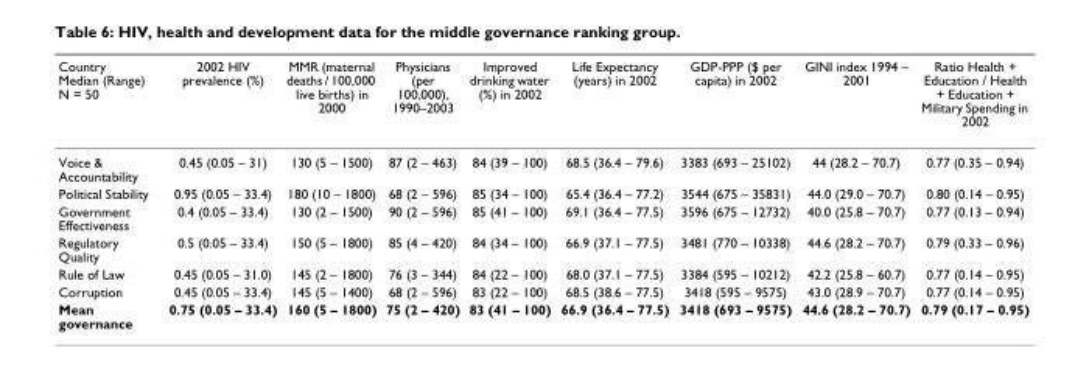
<table><thead><tr><td>Country Median (Range) N = 50</td><td>2002 HIV prevalence (%)</td><td>MMR (maternal deaths / 100,000 live births) in 2000</td><td>Physicians (per 100,000), 1990–2003</td><td>Improved drinking water (%) in 2002</td><td>Life Expectancy (years) in 2002</td><td>GDP-PPP ($ per capita) in 2002</td><td>GINI index 1994 – 2001</td><td>Ratio Health + Education / Health + Education + Military Spending in 2002</td></tr></thead><tbody><tr><td>Voice &amp; Accountability</td><td>0.45 (0.05 – 31)</td><td>130 (5 – 1500)</td><td>87 (2 – 463)</td><td>84 (39 – 100)</td><td>68.5 (36.4 – 79.6)</td><td>3383 (693 – 25102)</td><td>44 (28.2 – 70.7)</td><td>0.77 (0.35 – 0.94)</td></tr><tr><td>Political Stability</td><td>0.95 (0.05 – 33.4)</td><td>180 (10 – 1800)</td><td>68 (2 – 596)</td><td>85 (34 – 100)</td><td>65.4 (36.4 – 77.2)</td><td>3544 (675 – 35831)</td><td>44.0 (29.0 – 70.7)</td><td>0.80 (0.14 – 0.95)</td></tr><tr><td>Government Effectiveness</td><td>0.4 (0.05 – 33.4)</td><td>130 (2 – 1500)</td><td>90 (2 – 596)</td><td>85 (41 – 100)</td><td>69.1 (36.4 – 77.5)</td><td>3596 (675 – 12732)</td><td>40.0 (25.8 – 70.7)</td><td>0.77 (0.13 – 0.94)</td></tr><tr><td>Regulatory Quality</td><td>0.5 (0.05 – 33.4)</td><td>150 (5 – 1800)</td><td>85 (4 – 420)</td><td>84 (34 – 100)</td><td>66.9 (37.1 – 77.5)</td><td>3481 (770 – 10338)</td><td>44.6 (28.2 – 70.7)</td><td>0.79 (0.33 – 0.96)</td></tr><tr><td>Rule of Law</td><td>0.45 (0.05 – 31.0)</td><td>145 (2 – 1800)</td><td>76 (3 – 344)</td><td>84 (22 – 100)</td><td>68.0 (37.1 – 77.5)</td><td>3384 (595 – 10212)</td><td>42.2 (25.8 – 60.7)</td><td>0.77 (0.14 – 0.95)</td></tr><tr><td>Corruption</td><td>0.45 (0.05 – 33.4)</td><td>145 (5 – 1400)</td><td>68 (2 – 596)</td><td>83 (22 – 100)</td><td>68.5 (38.6 – 77.5)</td><td>3418 (595 – 9575)</td><td>43.0 (28.9 – 70.7)</td><td>0.77 (0.14 – 0.95)</td></tr><tr><td>Mean governance</td><td>0.75 (0.05 – 33.4)</td><td>160 (5 – 1800)</td><td>75 (2 – 420)</td><td>83 (41 – 100)</td><td>66.9 (36.4 – 77.5)</td><td>3418 (693 – 9575)</td><td>44.6 (28.2 – 70.7)</td><td>0.79 (0.17 – 0.95)</td></tr></tbody></table>